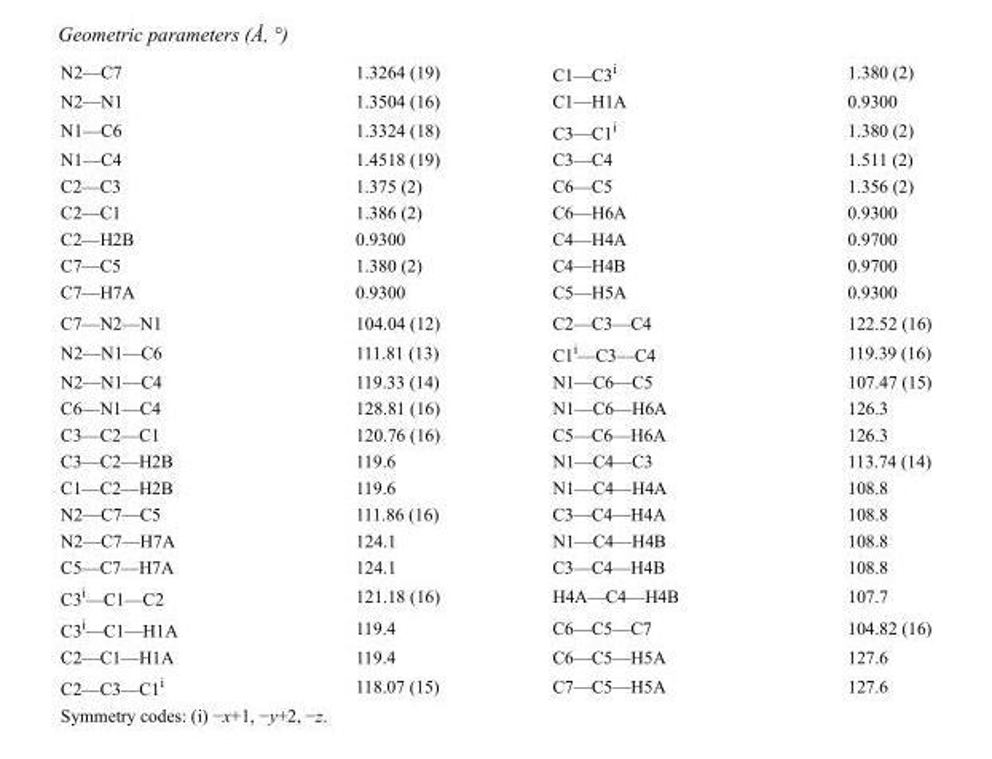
<table><tbody><tr><td>N2—C7</td><td>1.3264 (19)</td><td>C1—C3<sup>i</sup></td><td>1.380 (2)</td></tr><tr><td>N2—N1</td><td>1.3504 (16)</td><td>C1—H1A</td><td>0.9300</td></tr><tr><td>N1—C6</td><td>1.3324 (18)</td><td>C3—C1<sup>i</sup></td><td>1.380 (2)</td></tr><tr><td>N1—C4</td><td>1.4518 (19)</td><td>C3—C4</td><td>1.511 (2)</td></tr><tr><td>C2—C3</td><td>1.375 (2)</td><td>C6—C5</td><td>1.356 (2)</td></tr><tr><td>C2—C1</td><td>1.386 (2)</td><td>C6—H6A</td><td>0.9300</td></tr><tr><td>C2—H2B</td><td>0.9300</td><td>C4—H4A</td><td>0.9700</td></tr><tr><td>C7—C5</td><td>1.380 (2)</td><td>C4—H4B</td><td>0.9700</td></tr><tr><td>C7—H7A</td><td>0.9300</td><td>C5—H5A</td><td>0.9300</td></tr><tr><td>C7—N2—N1</td><td>104.04 (12)</td><td>C2—C3—C4</td><td>122.52 (16)</td></tr><tr><td>N2—N1—C6</td><td>111.81 (13)</td><td>C1<sup>i</sup>—C3—C4</td><td>119.39 (16)</td></tr><tr><td>N2—N1—C4</td><td>119.33 (14)</td><td>N1—C6—C5</td><td>107.47 (15)</td></tr><tr><td>C6—N1—C4</td><td>128.81 (16)</td><td>N1—C6—H6A</td><td>126.3</td></tr><tr><td>C3—C2—C1</td><td>120.76 (16)</td><td>C5—C6—H6A</td><td>126.3</td></tr><tr><td>C3—C2—H2B</td><td>119.6</td><td>N1—C4—C3</td><td>113.74 (14)</td></tr><tr><td>C1—C2—H2B</td><td>119.6</td><td>N1—C4—H4A</td><td>108.8</td></tr><tr><td>N2—C7—C5</td><td>111.86 (16)</td><td>C3—C4—H4A</td><td>108.8</td></tr><tr><td>N2—C7—H7A</td><td>124.1</td><td>N1—C4—H4B</td><td>108.8</td></tr><tr><td>C5—C7—H7A</td><td>124.1</td><td>C3—C4—H4B</td><td>108.8</td></tr><tr><td>C3<sup>i</sup>—C1—C2</td><td>121.18 (16)</td><td>H4A—C4—H4B</td><td>107.7</td></tr><tr><td>C3<sup>i</sup>—C1—H1A</td><td>119.4</td><td>C6—C5—C7</td><td>104.82 (16)</td></tr><tr><td>C2—C1—H1A</td><td>119.4</td><td>C6—C5—H5A</td><td>127.6</td></tr><tr><td>C2—C3—C1<sup>i</sup></td><td>118.07 (15)</td><td>C7—C5—H5A</td><td>127.6</td></tr></tbody></table>